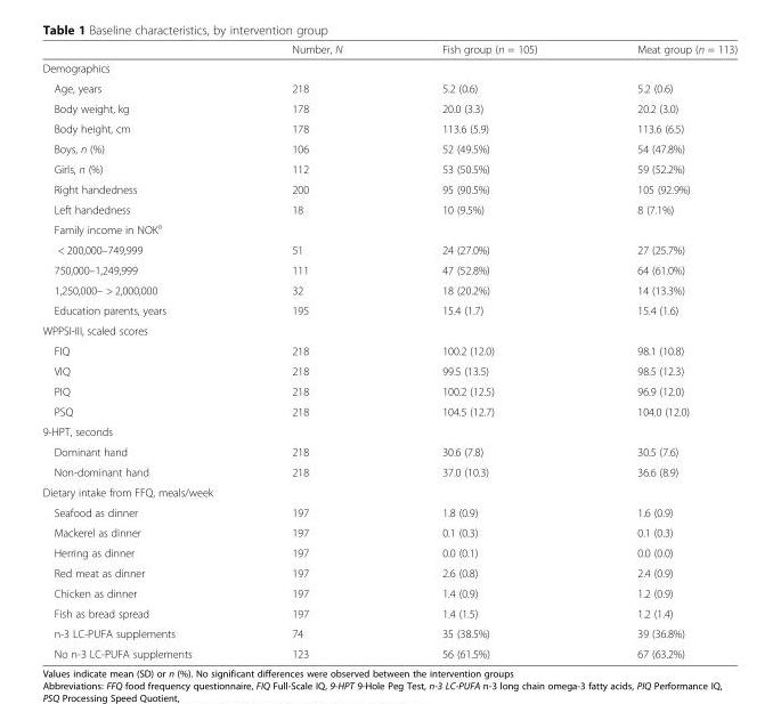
<table><thead><tr><td></td><td>Number, N</td><td>Fish group (n = 105)</td><td>Meat group (n = 113)</td></tr></thead><tbody><tr><td colspan="4">Demographics</td></tr><tr><td>Age, years</td><td>218</td><td>5.2 (0.6)</td><td>5.2 (0.6)</td></tr><tr><td>Body weight, kg</td><td>178</td><td>20.0 (3.3)</td><td>20.2 (3.0)</td></tr><tr><td>Body height, cm</td><td>178</td><td>113.6 (5.9)</td><td>113.6 (6.5)</td></tr><tr><td>Boys, n (%)</td><td>106</td><td>52 (49.5%)</td><td>54 (47.8%)</td></tr><tr><td>Girls, n (%)</td><td>112</td><td>53 (50.5%)</td><td>59 (52.2%)</td></tr><tr><td>Right handedness</td><td>200</td><td>95 (90.5%)</td><td>105 (92.9%)</td></tr><tr><td>Left handedness</td><td>18</td><td>10 (9.5%)</td><td>8 (7.1%)</td></tr><tr><td colspan="4">Family income in NOK<sup>a</sup></td></tr><tr><td>&lt; 200,000–749,999</td><td>51</td><td>24 (27.0%)</td><td>27 (25.7%)</td></tr><tr><td>750,000–1,249,999</td><td>111</td><td>47 (52.8%)</td><td>64 (61.0%)</td></tr><tr><td>1,250,000– &gt; 2,000,000</td><td>32</td><td>18 (20.2%)</td><td>14 (13.3%)</td></tr><tr><td>Education parents, years</td><td>195</td><td>15.4 (1.7)</td><td>15.4 (1.6)</td></tr><tr><td colspan="4">WPPSI-III, scaled scores</td></tr><tr><td>FIQ</td><td>218</td><td>100.2 (12.0)</td><td>98.1 (10.8)</td></tr><tr><td>VIQ</td><td>218</td><td>99.5 (13.5)</td><td>98.5 (12.3)</td></tr><tr><td>PIQ</td><td>218</td><td>100.2 (12.5)</td><td>96.9 (12.0)</td></tr><tr><td>PSQ</td><td>218</td><td>104.5 (12.7)</td><td>104.0 (12.0)</td></tr><tr><td colspan="4">9-HPT, seconds</td></tr><tr><td>Dominant hand</td><td>218</td><td>30.6 (7.8)</td><td>30.5 (7.6)</td></tr><tr><td>Non-dominant hand</td><td>218</td><td>37.0 (10.3)</td><td>36.6 (8.9)</td></tr><tr><td colspan="4">Dietary intake from FFQ, meals/week</td></tr><tr><td>Seafood as dinner</td><td>197</td><td>1.8 (0.9)</td><td>1.6 (0.9)</td></tr><tr><td>Mackerel as dinner</td><td>197</td><td>0.1 (0.3)</td><td>0.1 (0.3)</td></tr><tr><td>Herring as dinner</td><td>197</td><td>0.0 (0.1)</td><td>0.0 (0.0)</td></tr><tr><td>Red meat as dinner</td><td>197</td><td>2.6 (0.8)</td><td>2.4 (0.9)</td></tr><tr><td>Chicken as dinner</td><td>197</td><td>1.4 (0.9)</td><td>1.2 (0.9)</td></tr><tr><td>Fish as bread spread</td><td>197</td><td>1.4 (1.5)</td><td>1.2 (1.4)</td></tr><tr><td>n-3 LC-PUFA supplements</td><td>74</td><td>35 (38.5%)</td><td>39 (36.8%)</td></tr><tr><td>No n-3 LC-PUFA supplements</td><td>123</td><td>56 (61.5%)</td><td>67 (63.2%)</td></tr></tbody></table>